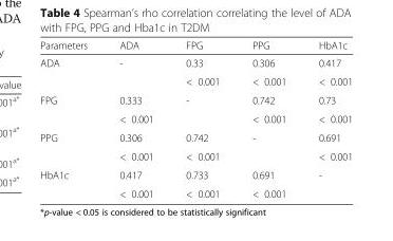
<table><thead><tr><td>Parameters</td><td>ADA</td><td>FPG</td><td>PPG</td><td>HbA1c</td></tr></thead><tbody><tr><td rowspan="2">ADA</td><td>-</td><td>0.33</td><td>0.306</td><td>0.417</td></tr><tr><td></td><td>&lt; 0.001</td><td>&lt; 0.001</td><td>&lt; 0.001</td></tr><tr><td rowspan="2">FPG</td><td>0.333</td><td>-</td><td>0.742</td><td>0.73</td></tr><tr><td>&lt; 0.001</td><td></td><td>&lt; 0.001</td><td>&lt; 0.001</td></tr><tr><td rowspan="2">PPG</td><td>0.306</td><td>0.742</td><td>-</td><td>0.691</td></tr><tr><td>&lt; 0.001</td><td>&lt; 0.001</td><td></td><td>&lt; 0.001</td></tr><tr><td rowspan="2">HbA1c</td><td>0.417</td><td>0.733</td><td>0.691</td><td>-</td></tr><tr><td>&lt; 0.001</td><td>&lt; 0.001</td><td>&lt; 0.001</td><td></td></tr></tbody></table>